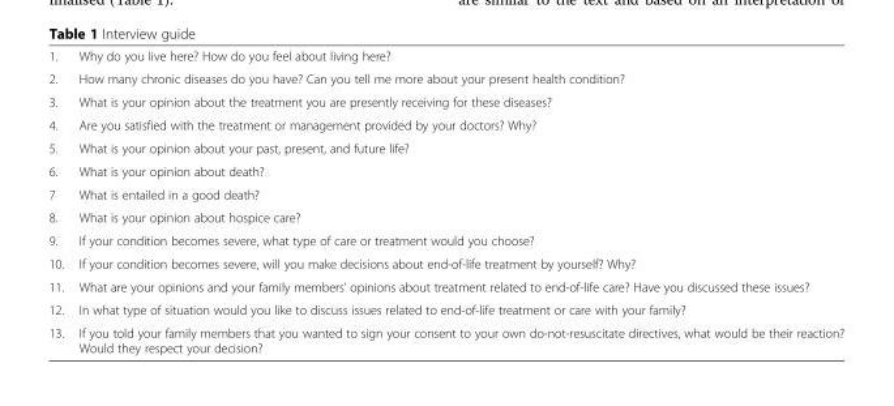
<table><tbody><tr><td>1.</td><td>Why do you live here? How do you feel about living here?</td></tr><tr><td>2.</td><td>How many chronic diseases do you have? Can you tell me more about your present health condition?</td></tr><tr><td>3.</td><td>What is your opinion about the treatment you are presently receiving for these diseases?</td></tr><tr><td>4.</td><td>Are you satisfied with the treatment or management provided by your doctors? Why?</td></tr><tr><td>5.</td><td>What is your opinion about your past, present, and future life?</td></tr><tr><td>6.</td><td>What is your opinion about death?</td></tr><tr><td>7</td><td>What is entailed in a good death?</td></tr><tr><td>8.</td><td>What is your opinion about hospice care?</td></tr><tr><td>9.</td><td>If your condition becomes severe, what type of care or treatment would you choose?</td></tr><tr><td>10.</td><td>If your condition becomes severe, will you make decisions about end-of-life treatment by yourself? Why?</td></tr><tr><td>11.</td><td>What are your opinions and your family members’ opinions about treatment related to end-of-life care? Have you discussed these issues?</td></tr><tr><td>12.</td><td>In what type of situation would you like to discuss issues related to end-of-life treatment or care with your family?</td></tr><tr><td>13.</td><td>If you told your family members that you wanted to sign your consent to your own do-not-resuscitate directives, what would be their reaction? Would they respect your decision?</td></tr></tbody></table>